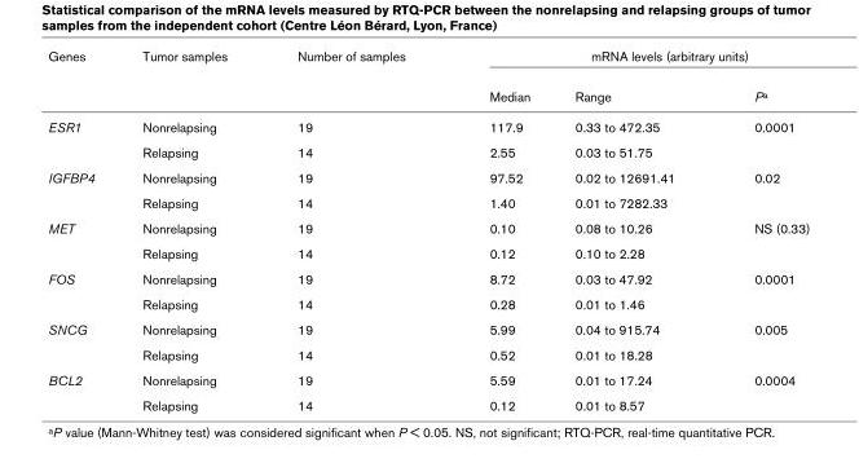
<table><thead><tr><td rowspan="2">Genes</td><td rowspan="2">Tumor samples</td><td rowspan="2">Number of samples</td><td colspan="3">mRNA levels (arbitrary units)</td></tr><tr><td>Median</td><td>Range</td><td>P<sup>a</sup></td></tr></thead><tbody><tr><td rowspan="2">ESR1</td><td>Nonrelapsing</td><td>19</td><td>117.9</td><td>0.33 to 472.35</td><td>0.0001</td></tr><tr><td>Relapsing</td><td>14</td><td>2.55</td><td>0.03 to 51.75</td><td></td></tr><tr><td rowspan="2">IGFBP4</td><td>Nonrelapsing</td><td>19</td><td>97.52</td><td>0.02 to 12691.41</td><td>0.02</td></tr><tr><td>Relapsing</td><td>14</td><td>1.40</td><td>0.01 to 7282.33</td><td></td></tr><tr><td rowspan="2">MET</td><td>Nonrelapsing</td><td>19</td><td>0.10</td><td>0.08 to 10.26</td><td>NS (0.33)</td></tr><tr><td>Relapsing</td><td>14</td><td>0.12</td><td>0.10 to 2.28</td><td></td></tr><tr><td rowspan="2">FOS</td><td>Nonrelapsing</td><td>19</td><td>8.72</td><td>0.03 to 47.92</td><td>0.0001</td></tr><tr><td>Relapsing</td><td>14</td><td>0.28</td><td>0.01 to 1.46</td><td></td></tr><tr><td rowspan="2">SNCG</td><td>Nonrelapsing</td><td>19</td><td>5.99</td><td>0.04 to 915.74</td><td>0.005</td></tr><tr><td>Relapsing</td><td>14</td><td>0.52</td><td>0.01 to 18.28</td><td></td></tr><tr><td rowspan="2">BCL2</td><td>Nonrelapsing</td><td>19</td><td>5.59</td><td>0.01 to 17.24</td><td>0.0004</td></tr><tr><td>Relapsing</td><td>14</td><td>0.12</td><td>0.01 to 8.57</td><td></td></tr></tbody></table>